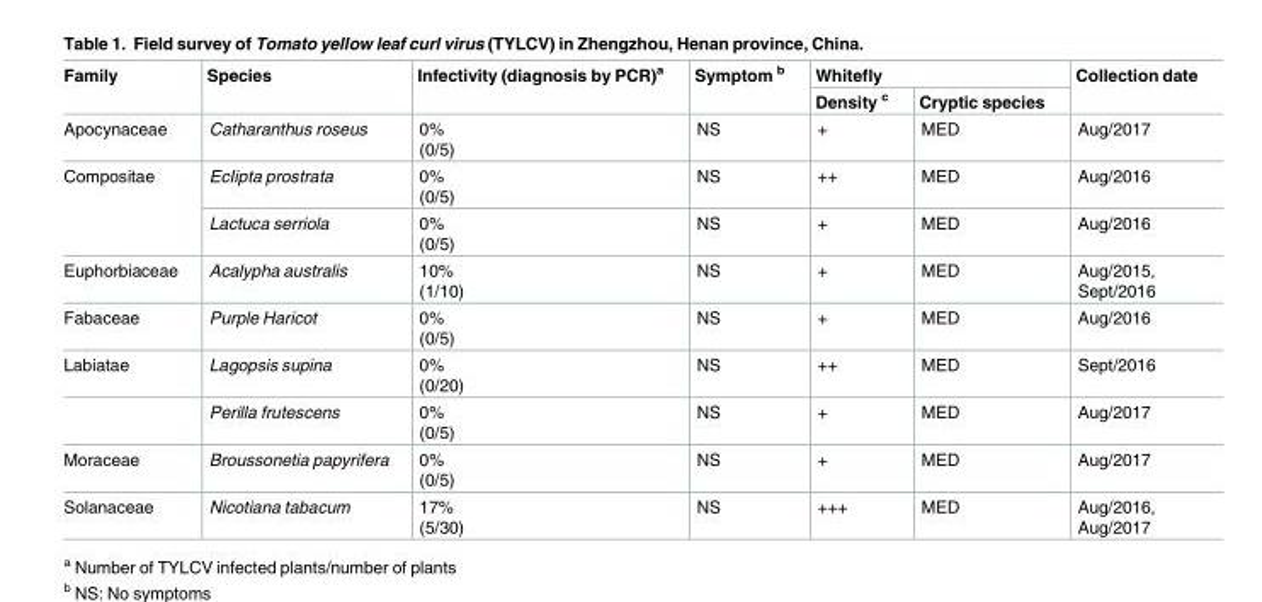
<table><thead><tr><td rowspan="2">Family</td><td rowspan="2">Species</td><td rowspan="2">Infectivity (diagnosis by PCR)<sup>a</sup></td><td rowspan="2">Symptom <sup>b</sup></td><td colspan="2">Whitefly</td><td rowspan="2">Collection date</td></tr><tr><td>Density <sup>c</sup></td><td>Cryptic species</td></tr></thead><tbody><tr><td>Apocynaceae</td><td>Catharanthus roseus</td><td>0% (0/5)</td><td>NS</td><td>+</td><td>MED</td><td>Aug/2017</td></tr><tr><td rowspan="2">Compositae</td><td>EcIipta prostrata</td><td>0% (0/5)</td><td>NS</td><td>++</td><td>MED</td><td>Aug/2016</td></tr><tr><td>Lactuca serriola</td><td>0% (0/5)</td><td>NS</td><td>+</td><td>MED</td><td>Aug/2016</td></tr><tr><td>Euphorbiaceae</td><td>Acalypha australis</td><td>10% (1/10)</td><td>NS</td><td>+</td><td>MED</td><td>Aug/2015, Sept/2016</td></tr><tr><td>Fabaceae</td><td>Purple Haricot</td><td>0% (0/5)</td><td>NS</td><td>+</td><td>MED</td><td>Aug/2016</td></tr><tr><td rowspan="2">Labiatae</td><td>Lagopsis supina</td><td>0% (0/20)</td><td>NS</td><td>++</td><td>MED</td><td>Sept/2016</td></tr><tr><td>Perilla frutescens</td><td>0% (0/5)</td><td>NS</td><td>+</td><td>MED</td><td>Aug/2017</td></tr><tr><td>Moraceae</td><td>Broussonetia papyrifera</td><td>0% (0/5)</td><td>NS</td><td>+</td><td>MED</td><td>Aug/2017</td></tr><tr><td>Solanaceae</td><td>Nicotiana tabacum</td><td>17% (5/30)</td><td>NS</td><td>+++</td><td>MED</td><td>Aug/2016, Aug/2017</td></tr></tbody></table>